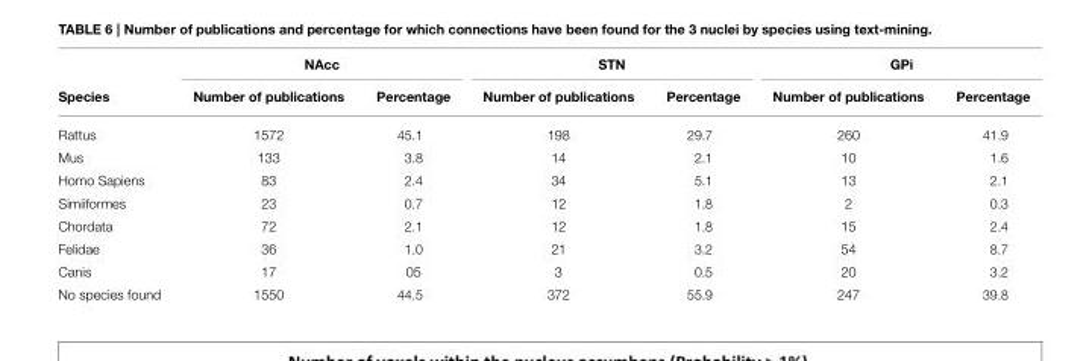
<table><thead><tr><td rowspan="2">Species</td><td colspan="2">NAcc</td><td colspan="2">STN</td><td colspan="2">GPi</td></tr><tr><td>Number of publications</td><td>Percentage</td><td>Number of publications</td><td>Percentage</td><td>Number of publications</td><td>Percentage</td></tr></thead><tbody><tr><td>Rattus</td><td>1572</td><td>45.1</td><td>198</td><td>29.7</td><td>260</td><td>41.9</td></tr><tr><td>Mus</td><td>133</td><td>3.8</td><td>14</td><td>2.1</td><td>10</td><td>1.6</td></tr><tr><td>Homo Sapiens</td><td>83</td><td>2.4</td><td>34</td><td>5.1</td><td>13</td><td>2.1</td></tr><tr><td>Simiiformes</td><td>23</td><td>0.7</td><td>12</td><td>1.8</td><td>2</td><td>0.3</td></tr><tr><td>Chordata</td><td>72</td><td>2.1</td><td>12</td><td>1.8</td><td>15</td><td>2.4</td></tr><tr><td>Felidae</td><td>36</td><td>1.0</td><td>21</td><td>3.2</td><td>54</td><td>8.7</td></tr><tr><td>Canis</td><td>17</td><td>05</td><td>3</td><td>0.5</td><td>20</td><td>3.2</td></tr><tr><td>No species found</td><td>1550</td><td>44.5</td><td>372</td><td>55.9</td><td>247</td><td>39.8</td></tr></tbody></table>